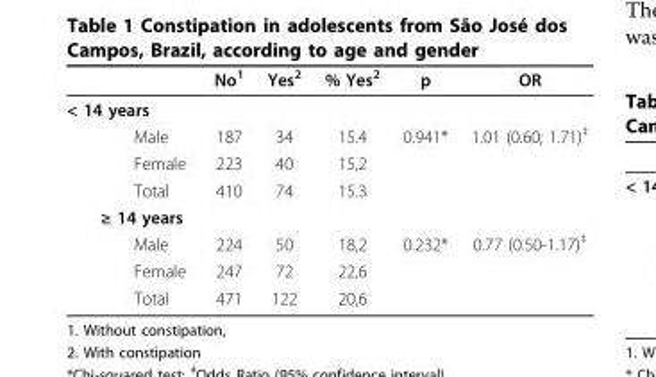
<table><thead><tr><td></td><td>No<sup>1</sup></td><td>Yes<sup>2</sup></td><td>% Yes<sup>2</sup></td><td>p</td><td>OR</td></tr></thead><tbody><tr><td colspan="6">&lt; 14 years</td></tr><tr><td>Male</td><td>187</td><td>34</td><td>15.4</td><td>0.941*</td><td>1.01 (0.60; 1.71)<sup>‡</sup></td></tr><tr><td>Female</td><td>223</td><td>40</td><td>15,2</td><td></td><td></td></tr><tr><td>Total</td><td>410</td><td>74</td><td>15.3</td><td></td><td></td></tr><tr><td colspan="6">≥ 14 years</td></tr><tr><td>Male</td><td>224</td><td>50</td><td>18,2</td><td>0.232*</td><td>0.77 (0.50-1.17)<sup>‡</sup></td></tr><tr><td>Female</td><td>247</td><td>72</td><td>22,6</td><td></td><td></td></tr><tr><td>Total</td><td>471</td><td>122</td><td>20,6</td><td></td><td></td></tr></tbody></table>